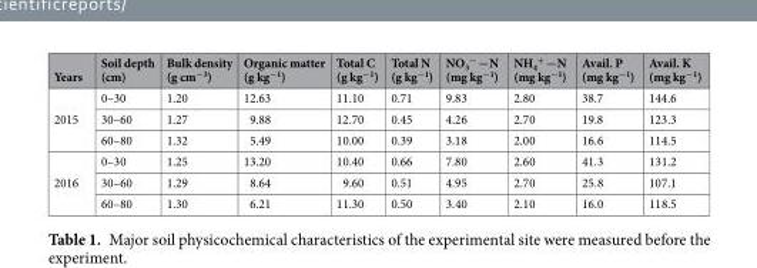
<table><thead><tr><td>Years</td><td>Soil depth (cm)</td><td>Bulk density (g cm<sup>−3</sup>)</td><td>Organic matter (g kg<sup>−1</sup>)</td><td>Total C (g kg<sup>−1</sup>)</td><td>Total N (g kg<sup>−1</sup>)</td><td>NO<sub>3</sub> <sup>−</sup> −N (mg kg<sup>−1</sup>)</td><td>NH<sub>4</sub> <sup>+</sup> −N (mg kg<sup>−1</sup>)</td><td>Avail. P (mg kg<sup>−1</sup>)</td><td>Avail. K (mg kg<sup>−1</sup>)</td></tr></thead><tbody><tr><td rowspan="3">2015</td><td>0–30</td><td>1.20</td><td>12.63</td><td>11.10</td><td>0.71</td><td>9.83</td><td>2.80</td><td>38.7</td><td>144.6</td></tr><tr><td>30–60</td><td>1.27</td><td>9.88</td><td>12.70</td><td>0.45</td><td>4.26</td><td>2.70</td><td>19.8</td><td>123.3</td></tr><tr><td>60–80</td><td>1.32</td><td>5.49</td><td>10.00</td><td>0.39</td><td>3.18</td><td>2.00</td><td>16.6</td><td>114.5</td></tr><tr><td rowspan="3">2016</td><td>0–30</td><td>1.25</td><td>13.20</td><td>10.40</td><td>0.66</td><td>7.80</td><td>2.60</td><td>41.3</td><td>131.2</td></tr><tr><td>30–60</td><td>1.29</td><td>8.64</td><td>9.60</td><td>0.51</td><td>4.95</td><td>2.70</td><td>25.8</td><td>107.1</td></tr><tr><td>60–80</td><td>1.30</td><td>6.21</td><td>11.30</td><td>0.50</td><td>3.40</td><td>2.10</td><td>16.0</td><td>118.5</td></tr></tbody></table>